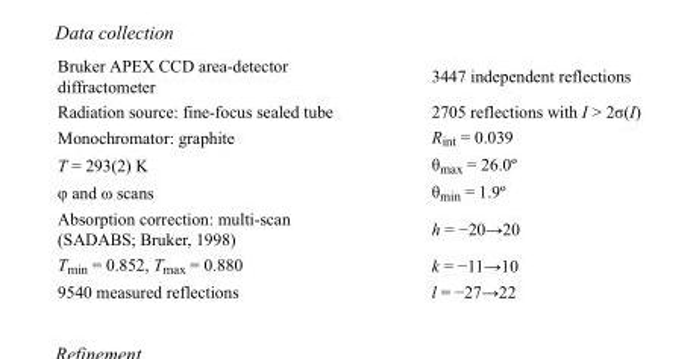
<table><tbody><tr><td>Bruker APEX CCD area-detector diffractometer</td><td>3447 independent reflections</td></tr><tr><td>Radiation source: fine-focus sealed tube</td><td>2705 reflections with I &gt; 2σ(I)</td></tr><tr><td>Monochromator: graphite</td><td>R<sub>int</sub> = 0.039</td></tr><tr><td>T = 293(2) K</td><td>θ<sub>max</sub> = 26.0º</td></tr><tr><td>φ and ω scans</td><td>θ<sub>min</sub> = 1.9º</td></tr><tr><td>Absorption correction: multi-scan (SADABS; Bruker, 1998)</td><td>h = −20→20</td></tr><tr><td>T<sub>min</sub> = 0.852, T<sub>max</sub> = 0.880</td><td>k = −11→10</td></tr><tr><td>9540 measured reflections</td><td>l = −27→22</td></tr></tbody></table>